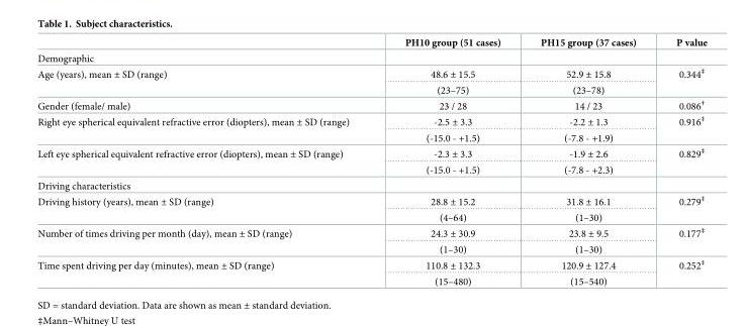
<table><thead><tr><td></td><td>PH10 group (51 cases)</td><td>PH15 group (37 cases)</td><td>P value</td></tr></thead><tbody><tr><td colspan="4">Demographic</td></tr><tr><td rowspan="2">Age (years), mean ± SD (range)</td><td>48.6 ± 15.5</td><td>52.9 ± 15.8</td><td rowspan="2">0.344<sup>‡</sup></td></tr><tr><td>(23–75)</td><td>(23–78)</td></tr><tr><td>Gender (female/ male)</td><td>23 / 28</td><td>14 / 23</td><td>0.086<sup>†</sup></td></tr><tr><td rowspan="2">Right eye spherical equivalent refractive error (diopters), mean ± SD (range)</td><td>-2.5 ± 3.3</td><td>-2.2 ± 1.3</td><td rowspan="2">0.916<sup>‡</sup></td></tr><tr><td>(-15.0 - +1.5)</td><td>(-7.8 - +1.9)</td></tr><tr><td rowspan="2">Left eye spherical equivalent refractive error (diopters), mean ± SD (range)</td><td>-2.3 ± 3.3</td><td>-1.9 ± 2.6</td><td rowspan="2">0.829<sup>‡</sup></td></tr><tr><td>(-15.0 - +1.5)</td><td>(-7.8 - +2.3)</td></tr><tr><td colspan="4">Driving characteristics</td></tr><tr><td rowspan="2">Driving history (years), mean ± SD (range)</td><td>28.8 ± 15.2</td><td>31.8 ± 16.1</td><td rowspan="2">0.279<sup>‡</sup></td></tr><tr><td>(4–64)</td><td>(1–30)</td></tr><tr><td rowspan="2">Number of times driving per month (day), mean ± SD (range)</td><td>24.3 ± 30.9</td><td>23.8 ± 9.5</td><td rowspan="2">0.177<sup>‡</sup></td></tr><tr><td>(1–30)</td><td>(1–30)</td></tr><tr><td rowspan="2">Time spent driving per day (minutes), mean ± SD (range)</td><td>110.8 ± 132.3</td><td>120.9 ± 127.4</td><td rowspan="2">0.252<sup>‡</sup></td></tr><tr><td>(15–480)</td><td>(15–540)</td></tr></tbody></table>